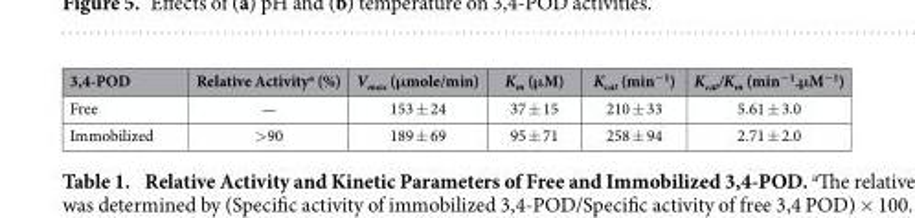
<table><thead><tr><td>3,4-POD</td><td>Relative Activity<sup>a</sup> (%)</td><td>V<sub>max</sub> (μmole/min)</td><td>K<sub>m</sub> (μM)</td><td>K<sub>cat</sub> (min<sup>−1</sup>)</td><td>K<sub>cat</sub>/K<sub>m</sub> (min<sup>−1</sup>.μM<sup>−1</sup>)</td></tr></thead><tbody><tr><td>Free</td><td>—</td><td>153 ± 24</td><td>37 ± 15</td><td>210 ± 33</td><td>5.61 ± 3.0</td></tr><tr><td>Immobilized</td><td>&gt; 90</td><td>189 ± 69</td><td>95 ± 71</td><td>258 ± 94</td><td>2.71 ± 2.0</td></tr></tbody></table>